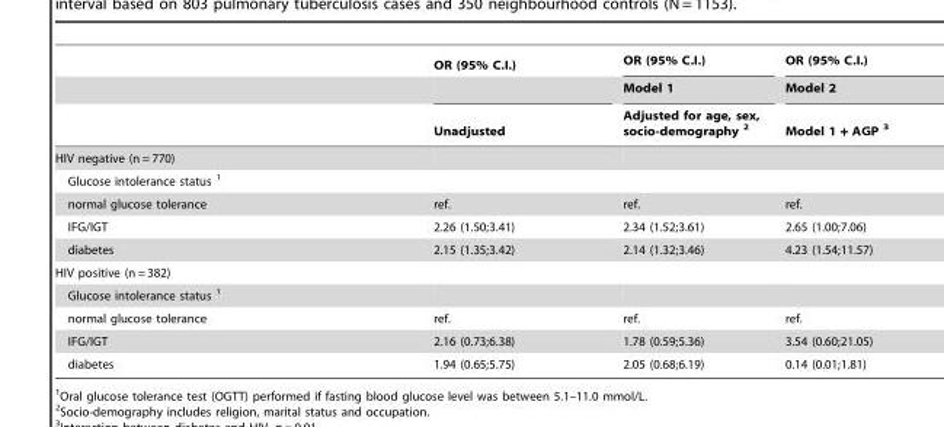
<table><thead><tr><td rowspan="3"></td><td rowspan="3">OR (95% C.I.) Unadjusted</td><td rowspan="3">OR (95% C.I.) Model 1 Adjusted for age, sex, socio-demography 2</td><td rowspan="3">OR (95% C.I.) Model 2 Model 1 + AGP 3</td></tr><tr></tr><tr></tr></thead><tbody><tr><td colspan="4">HIV negative (n = 770)</td></tr><tr><td colspan="4">Glucose intolerance status 1</td></tr><tr><td>normal glucose tolerance</td><td>ref.</td><td>ref.</td><td>ref.</td></tr><tr><td>IFG/IGT</td><td>2.26 (1.50;3.41)</td><td>2.34 (1.52;3.61)</td><td>2.65 (1.00;7.06)</td></tr><tr><td>diabetes</td><td>2.15 (1.35;3.42)</td><td>2.14 (1.32;3.46)</td><td>4.23 (1.54;11.57)</td></tr><tr><td colspan="4">HIV positive (n = 382)</td></tr><tr><td colspan="4">Glucose intolerance status 1</td></tr><tr><td>normal glucose tolerance</td><td>ref.</td><td>ref.</td><td>ref.</td></tr><tr><td>IFG/IGT</td><td>2.16 (0.73;6.38)</td><td>1.78 (0.59;5.36)</td><td>3.54 (0.60;21.05)</td></tr><tr><td>diabetes</td><td>1.94 (0.65;5.75)</td><td>2.05 (0.68;6.19)</td><td>0.14 (0.01;1.81)</td></tr></tbody></table>